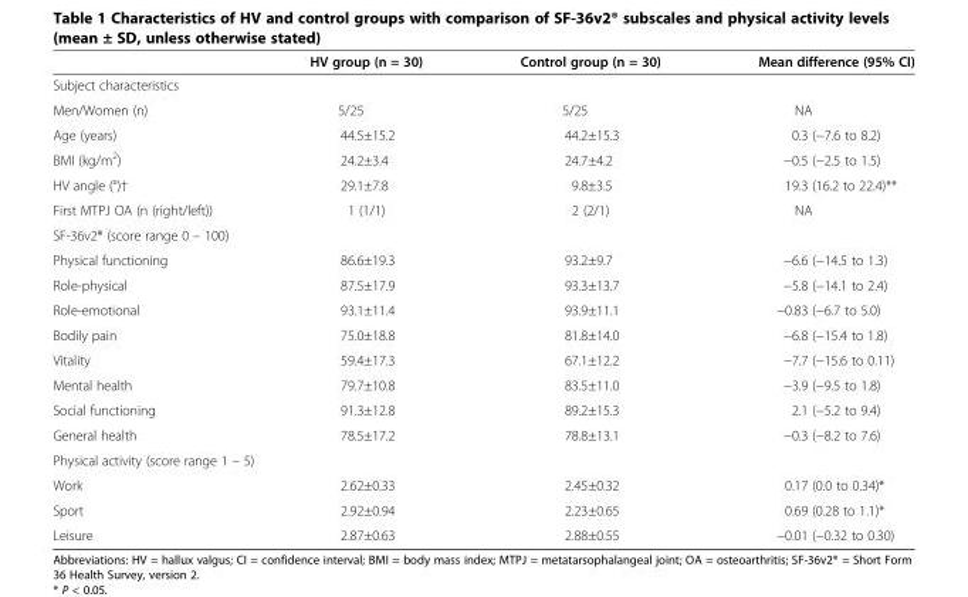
<table><thead><tr><td></td><td>HV group (n = 30)</td><td>Control group (n = 30)</td><td>Mean difference (95% CI)</td></tr></thead><tbody><tr><td colspan="4">Subject characteristics</td></tr><tr><td>Men/Women (n)</td><td>5/25</td><td>5/25</td><td>NA</td></tr><tr><td>Age (years)</td><td>44.5±15.2</td><td>44.2±15.3</td><td>0.3 (−7.6 to 8.2)</td></tr><tr><td>BMI (kg/m<sup>2</sup>)</td><td>24.2±3.4</td><td>24.7±4.2</td><td>−0.5 (−2.5 to 1.5)</td></tr><tr><td>HV angle (°)†</td><td>29.1±7.8</td><td>9.8±3.5</td><td>19.3 (16.2 to 22.4)**</td></tr><tr><td>First MTPJ OA (n (right/left))</td><td>1 (1/1)</td><td>2 (2/1)</td><td>NA</td></tr><tr><td colspan="4">SF-36v2® (score range 0 – 100)</td></tr><tr><td>Physical functioning</td><td>86.6±19.3</td><td>93.2±9.7</td><td>−6.6 (−14.5 to 1.3)</td></tr><tr><td>Role-physical</td><td>87.5±17.9</td><td>93.3±13.7</td><td>−5.8 (−14.1 to 2.4)</td></tr><tr><td>Role-emotional</td><td>93.1±11.4</td><td>93.9±11.1</td><td>−0.83 (−6.7 to 5.0)</td></tr><tr><td>Bodily pain</td><td>75.0±18.8</td><td>81.8±14.0</td><td>−6.8 (−15.4 to 1.8)</td></tr><tr><td>Vitality</td><td>59.4±17.3</td><td>67.1±12.2</td><td>−7.7 (−15.6 to 0.11)</td></tr><tr><td>Mental health</td><td>79.7±10.8</td><td>83.5±11.0</td><td>−3.9 (−9.5 to 1.8)</td></tr><tr><td>Social functioning</td><td>91.3±12.8</td><td>89.2±15.3</td><td>2.1 (−5.2 to 9.4)</td></tr><tr><td>General health</td><td>78.5±17.2</td><td>78.8±13.1</td><td>−0.3 (−8.2 to 7.6)</td></tr><tr><td colspan="4">Physical activity (score range 1 – 5)</td></tr><tr><td>Work</td><td>2.62±0.33</td><td>2.45±0.32</td><td>0.17 (0.0 to 0.34)*</td></tr><tr><td>Sport</td><td>2.92±0.94</td><td>2.23±0.65</td><td>0.69 (0.28 to 1.1)*</td></tr><tr><td>Leisure</td><td>2.87±0.63</td><td>2.88±0.55</td><td>−0.01 (−0.32 to 0.30)</td></tr></tbody></table>